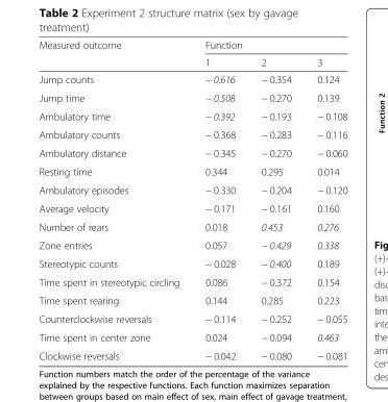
<table><thead><tr><td rowspan="2">Measured outcome</td><td colspan="3">Function</td></tr><tr><td>1</td><td>2</td><td>3</td></tr></thead><tbody><tr><td>Jump counts</td><td>− 0.616</td><td>− 0.354</td><td>0.124</td></tr><tr><td>Jump time</td><td>− 0.508</td><td>− 0.270</td><td>0.139</td></tr><tr><td>Ambulatory time</td><td>− 0.392</td><td>− 0.193</td><td>− 0.108</td></tr><tr><td>Ambulatory counts</td><td>− 0.368</td><td>− 0.283</td><td>− 0.116</td></tr><tr><td>Ambulatory distance</td><td>− 0.345</td><td>− 0.270</td><td>− 0.060</td></tr><tr><td>Resting time</td><td>0.344</td><td>0.295</td><td>0.014</td></tr><tr><td>Ambulatory episodes</td><td>− 0.330</td><td>− 0.204</td><td>− 0.120</td></tr><tr><td>Average velocity</td><td>− 0.171</td><td>− 0.161</td><td>0.160</td></tr><tr><td>Number of rears</td><td>0.018</td><td>0.453</td><td>0.276</td></tr><tr><td>Zone entries</td><td>0.057</td><td>− 0.429</td><td>0.338</td></tr><tr><td>Stereotypic counts</td><td>− 0.028</td><td>− 0.400</td><td>0.189</td></tr><tr><td>Time spent in stereotypic circling</td><td>0.086</td><td>− 0.372</td><td>0.154</td></tr><tr><td>Time spent rearing</td><td>0.144</td><td>0.285</td><td>0.223</td></tr><tr><td>Counterclockwise reversals</td><td>− 0.114</td><td>− 0.252</td><td>− 0.055</td></tr><tr><td>Time spent in center zone</td><td>0.024</td><td>− 0.094</td><td>0.463</td></tr><tr><td>Clockwise reversals</td><td>− 0.042</td><td>− 0.080</td><td>− 0.081</td></tr></tbody></table>